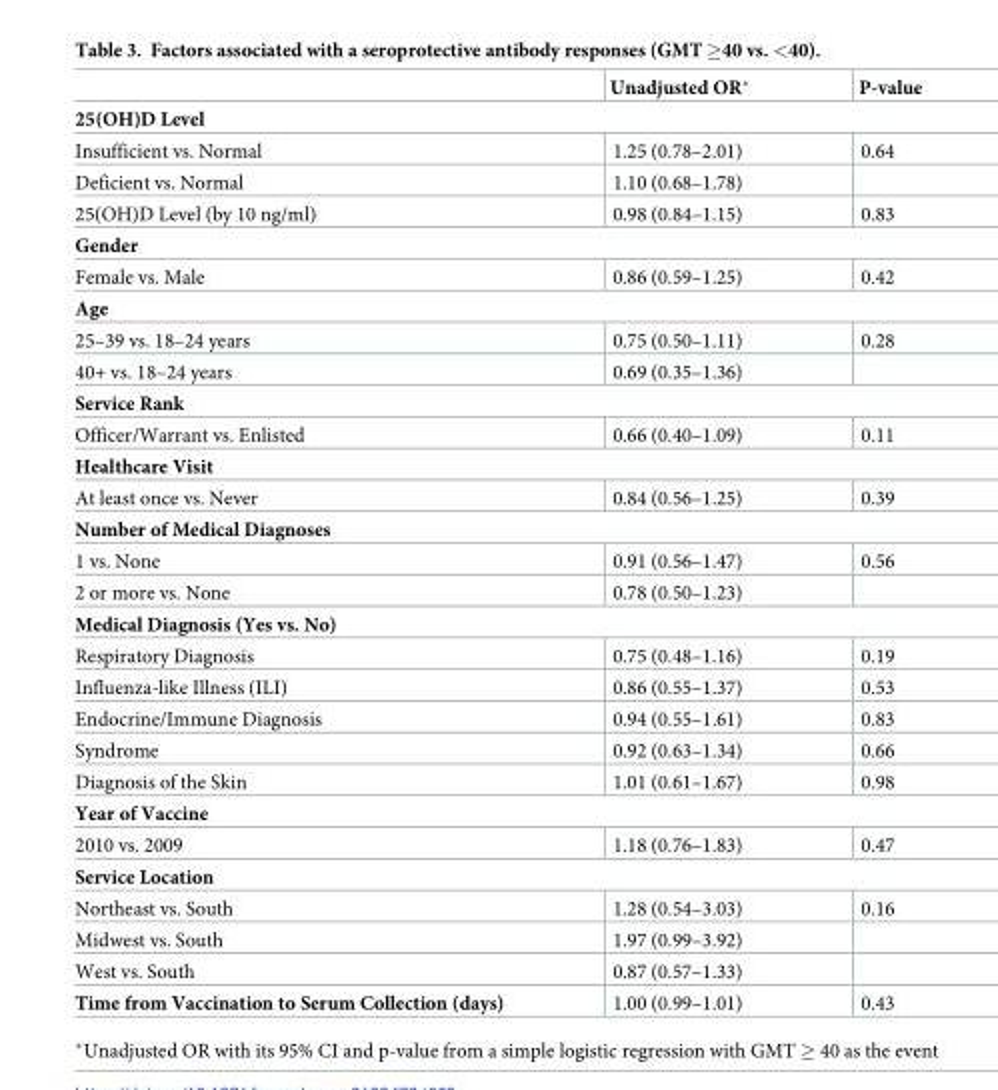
<table><thead><tr><td></td><td>Unadjusted OR*</td><td>P-value</td></tr></thead><tbody><tr><td colspan="3">25(OH)D Level</td></tr><tr><td>Insufficient vs. Normal</td><td>1.25 (0.78–2.01)</td><td>0.64</td></tr><tr><td>Deficient vs. Normal</td><td>1.10 (0.68–1.78)</td><td></td></tr><tr><td>25(OH)D Level (by 10 ng/ml)</td><td>0.98 (0.84–1.15)</td><td>0.83</td></tr><tr><td colspan="3">Gender</td></tr><tr><td>Female vs. Male</td><td>0.86 (0.59–1.25)</td><td>0.42</td></tr><tr><td colspan="3">Age</td></tr><tr><td>25–39 vs. 18–24 years</td><td>0.75 (0.50–1.11)</td><td>0.28</td></tr><tr><td>40+ vs. 18–24 years</td><td>0.69 (0.35–1.36)</td><td></td></tr><tr><td colspan="3">Service Rank</td></tr><tr><td>Officer/Warrant vs. Enlisted</td><td>0.66 (0.40–1.09)</td><td>0.11</td></tr><tr><td colspan="3">Healthcare Visit</td></tr><tr><td>At least once vs. Never</td><td>0.84 (0.56–1.25)</td><td>0.39</td></tr><tr><td colspan="3">Number of Medical Diagnoses</td></tr><tr><td>1 vs. None</td><td>0.91 (0.56–1.47)</td><td>0.56</td></tr><tr><td>2 or more vs. None</td><td>0.78 (0.50–1.23)</td><td></td></tr><tr><td colspan="3">Medical Diagnosis (Yes vs. No)</td></tr><tr><td>Respiratory Diagnosis</td><td>0.75 (0.48–1.16)</td><td>0.19</td></tr><tr><td>Influenza-like Illness (ILI)</td><td>0.86 (0.55–1.37)</td><td>0.53</td></tr><tr><td>Endocrine/Immune Diagnosis</td><td>0.94 (0.55–1.61)</td><td>0.83</td></tr><tr><td>Syndrome</td><td>0.92 (0.63–1.34)</td><td>0.66</td></tr><tr><td>Diagnosis of the Skin</td><td>1.01 (0.61–1.67)</td><td>0.98</td></tr><tr><td colspan="3">Year of Vaccine</td></tr><tr><td>2010 vs. 2009</td><td>1.18 (0.76–1.83)</td><td>0.47</td></tr><tr><td colspan="3">Service Location</td></tr><tr><td>Northeast vs. South</td><td>1.28 (0.54–3.03)</td><td>0.16</td></tr><tr><td>Midwest vs. South</td><td>1.97 (0.99–3.92)</td><td></td></tr><tr><td>West vs. South</td><td>0.87 (0.57–1.33)</td><td></td></tr><tr><td>Time from Vaccination to Serum Collection (days)</td><td>1.00 (0.99–1.01)</td><td>0.43</td></tr></tbody></table>